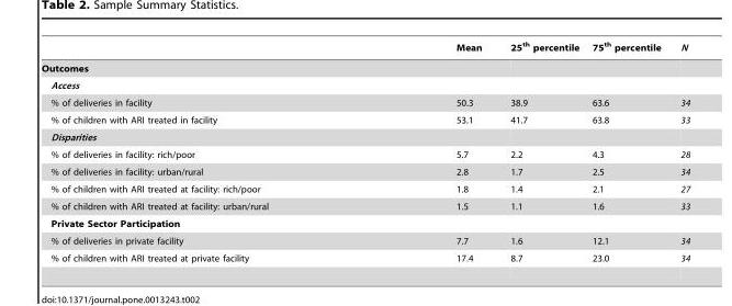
<table><thead><tr><td></td><td>Mean</td><td>25<sup>th</sup> percentile</td><td>75<sup>th</sup> percentile</td><td>N</td></tr></thead><tbody><tr><td colspan="5">Outcomes</td></tr><tr><td colspan="5">Access</td></tr><tr><td>% of deliveries in facility</td><td>50.3</td><td>38.9</td><td>63.6</td><td>34</td></tr><tr><td>% of children with ARI treated in facility</td><td>53.1</td><td>41.7</td><td>63.8</td><td>33</td></tr><tr><td colspan="5">Disparities</td></tr><tr><td>% of deliveries in facility: rich/poor</td><td>5.7</td><td>2.2</td><td>4.3</td><td>28</td></tr><tr><td>% of deliveries in facility: urban/rural</td><td>2.8</td><td>1.7</td><td>2.5</td><td>34</td></tr><tr><td>% of children with ARI treated at facility: rich/poor</td><td>1.8</td><td>1.4</td><td>2.1</td><td>27</td></tr><tr><td>% of children with ARI treated at facility: urban/rural</td><td>1.5</td><td>1.1</td><td>1.6</td><td>33</td></tr><tr><td colspan="5">Private Sector Participation</td></tr><tr><td>% of deliveries in private facility</td><td>7.7</td><td>1.6</td><td>12.1</td><td>34</td></tr><tr><td>% of children with ARI treated at private facility</td><td>17.4</td><td>8.7</td><td>23.0</td><td>34</td></tr></tbody></table>